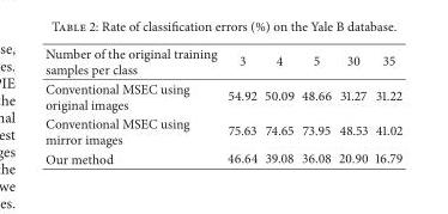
<table><thead><tr><td>Number of the original training samples per class</td><td>3</td><td>4</td><td>5</td><td>30</td><td>35</td></tr></thead><tbody><tr><td>Conventional MSEC using original images</td><td>54.92</td><td>50.09</td><td>48.66</td><td>31.27</td><td>31.22</td></tr><tr><td>Conventional MSEC using mirror images</td><td>75.63</td><td>74.65</td><td>73.95</td><td>48.53</td><td>41.02</td></tr><tr><td>Our method</td><td>46.64</td><td>39.08</td><td>36.08</td><td>20.90</td><td>16.79</td></tr></tbody></table>